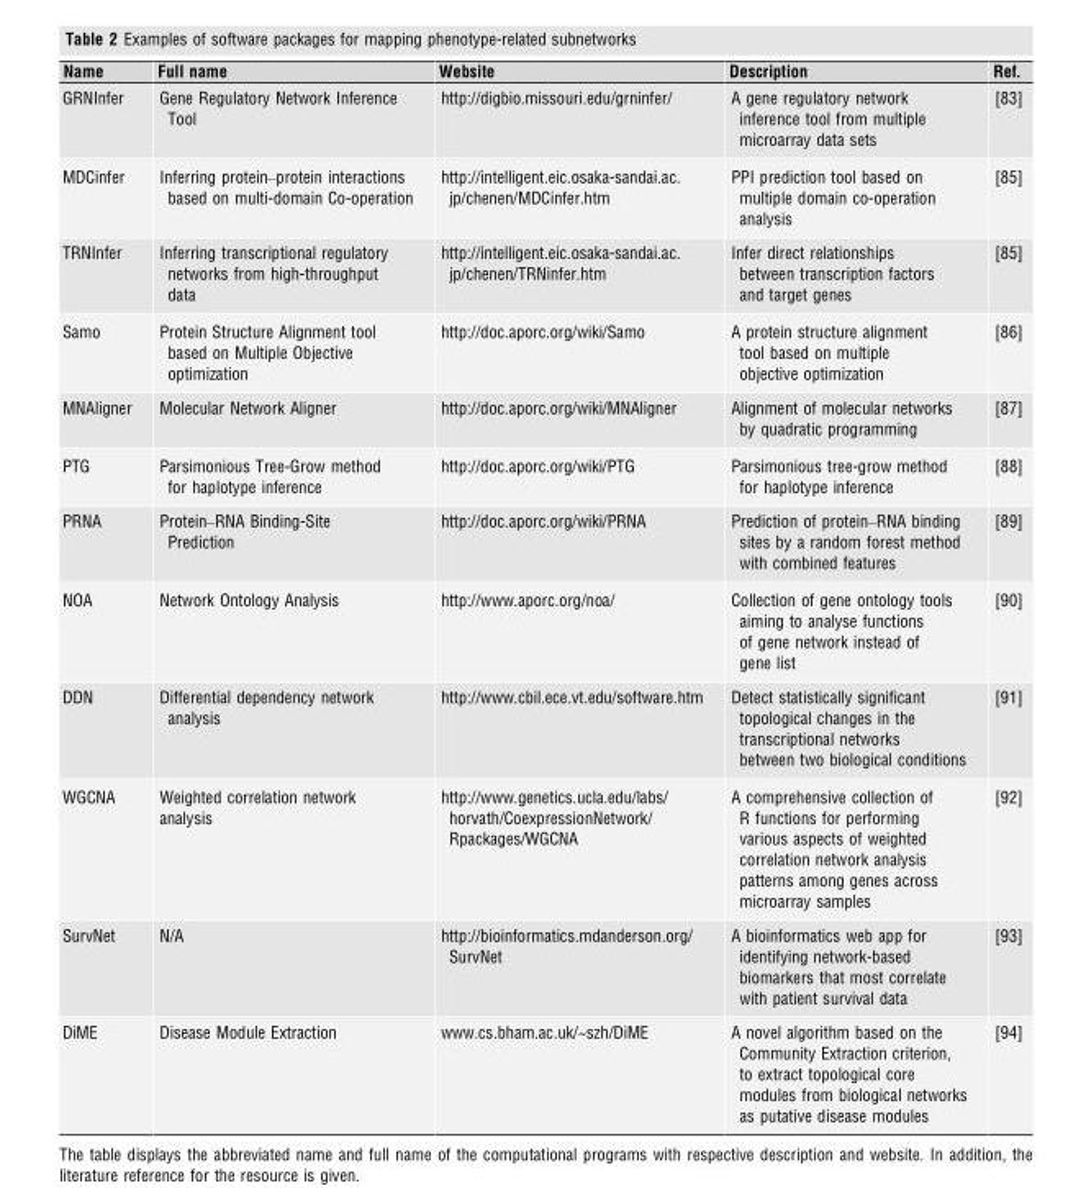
<table><thead><tr><td>Name</td><td>Full name</td><td>Website</td><td>Description</td><td>Ref.</td></tr></thead><tbody><tr><td>GRNInfer</td><td>Gene Regulatory Network Inference Tool</td><td>http://digbio.missouri.edu/grninfer/</td><td>A gene regulatory network inference tool from multiple microarray data sets</td><td>[83]</td></tr><tr><td>MDCinfer</td><td>Inferring protein–protein interactions based on multi-domain Co-operation</td><td>http://intelligent.eic.osaka-sandai.ac. jp/chenen/MDCinfer.htm</td><td>PPI prediction tool based on multiple domain co-operation analysis</td><td>[85]</td></tr><tr><td>TRNInfer</td><td>Inferring transcriptional regulatory networks from high-throughput data</td><td>http://intelligent.eic.osaka-sandai.ac. jp/chenen/TRNinfer.htm</td><td>Infer direct relationships between transcription factors and target genes</td><td>[85]</td></tr><tr><td>Samo</td><td>Protein Structure Alignment tool based on Multiple Objective optimization</td><td>http://doc.aporc.org/wiki/Samo</td><td>A protein structure alignment tool based on multiple objective optimization</td><td>[86]</td></tr><tr><td>MNAligner</td><td>Molecular Network Aligner</td><td>http://doc.aporc.org/wiki/MNAligner</td><td>Alignment of molecular networks by quadratic programming</td><td>[87]</td></tr><tr><td>PTG</td><td>Parsimonious Tree-Grow method for haplotype inference</td><td>http://doc.aporc.org/wiki/PTG</td><td>Parsimonious tree-grow method for haplotype inference</td><td>[88]</td></tr><tr><td>PRNA</td><td>Protein–RNA Binding-Site Prediction</td><td>http://doc.aporc.org/wiki/PRNA</td><td>Prediction of protein–RNA binding sites by a random forest method with combined features</td><td>[89]</td></tr><tr><td>NOA</td><td>Network Ontology Analysis</td><td>http://www.aporc.org/noa/</td><td>Collection of gene ontology tools aiming to analyse functions of gene network instead of gene list</td><td>[90]</td></tr><tr><td>DDN</td><td>Differential dependency network analysis</td><td>http://www.cbil.ece.vt.edu/software.htm</td><td>Detect statistically significant topological changes in the transcriptional networks between two biological conditions</td><td>[91]</td></tr><tr><td>WGCNA</td><td>Weighted correlation network analysis</td><td>http://www.genetics.ucla.edu/labs/ horvath/CoexpressionNetwork/ Rpackages/WGCNA</td><td>A comprehensive collection of R functions for performing various aspects of weighted correlation network analysis patterns among genes across microarray samples</td><td>[92]</td></tr><tr><td>SurvNet</td><td>N/A</td><td>http://bioinformatics.mdanderson.org/ SurvNet</td><td>A bioinformatics web app for identifying network-based biomarkers that most correlate with patient survival data</td><td>[93]</td></tr><tr><td>DiME</td><td>Disease Module Extraction</td><td>www.cs.bham.ac.uk/~szh/DiME</td><td>A novel algorithm based on the Community Extraction criterion, to extract topological core modules from biological networks as putative disease modules</td><td>[94]</td></tr></tbody></table>